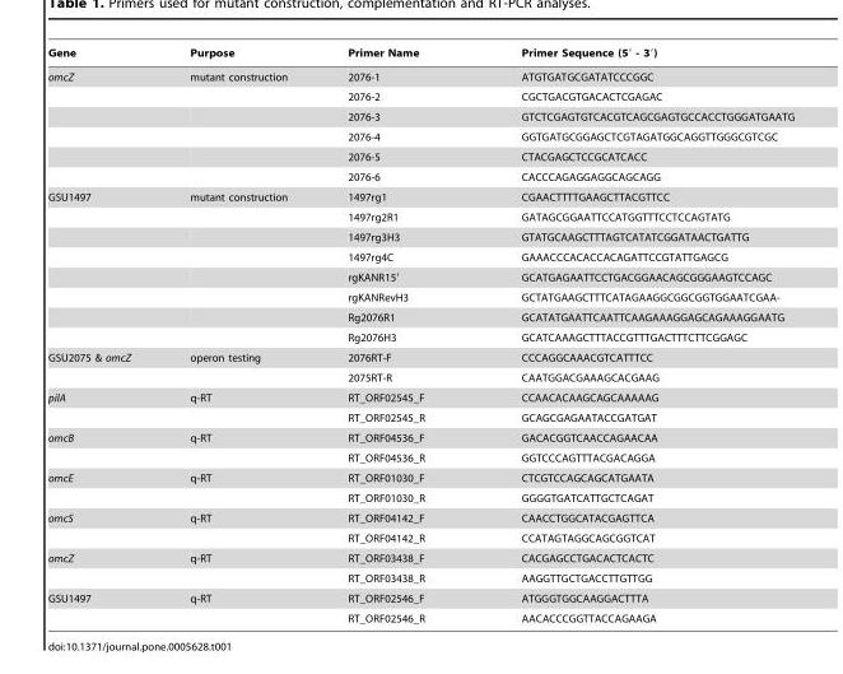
<table><thead><tr><td>Gene</td><td>Purpose</td><td>Primer Name</td><td>Primer Sequence (5′ - 3′)</td></tr></thead><tbody><tr><td rowspan="6">omcZ</td><td>mutant construction</td><td>2076-1</td><td>ATGTGATGCGATATCCCGGC</td></tr><tr><td></td><td>2076-2</td><td>CGCTGACGTGACACTCGAGAC</td></tr><tr><td></td><td>2076-3</td><td>GTCTCGAGTGTCACGTCAGCGAGTGCCACCTGGGATGAATG</td></tr><tr><td></td><td>2076-4</td><td>GGTGATGCGGAGCTCGTAGATGGCAGGTTGGGCGTCGC</td></tr><tr><td></td><td>2076-5</td><td>CTACGAGCTCCGCATCACC</td></tr><tr><td></td><td>2076-6</td><td>CACCCAGAGGAGGCAGCAGG</td></tr><tr><td rowspan="8">GSU1497</td><td>mutant construction</td><td>1497rg1</td><td>CGAACTTTTGAAGCTTACGTTCC</td></tr><tr><td></td><td>1497rg2R1</td><td>GATAGCGGAATTCCATGGTTTCCTCCAGTATG</td></tr><tr><td></td><td>1497rg3H3</td><td>GTATGCAAGCTTTAGTCATATCGGATAACTGATTG</td></tr><tr><td></td><td>1497rg4C</td><td>GAAACCCACACCACAGATTCCGTATTGAGCG</td></tr><tr><td></td><td>rgKANR15′</td><td>GCATGAGAATTCCTGACGGAACAGCGGGAAGTCCAGC</td></tr><tr><td></td><td>rgKANRevH3</td><td>GCTATGAAGCTTTCATAGAAGGCGGCGGTGGAATCGAA-</td></tr><tr><td></td><td>Rg2076R1</td><td>GCATATGAATTCAATTCAAGAAAGGAGCAGAAAGGAATG</td></tr><tr><td></td><td>Rg2076H3</td><td>GCATCAAAGCTTTACCGTTTGACTTTCTTCGGAGC</td></tr><tr><td rowspan="2">GSU2075 &amp; omcZ</td><td>operon testing</td><td>2076RT-F</td><td>CCCAGGCAAACGTCATTTCC</td></tr><tr><td></td><td>2075RT-R</td><td>CAATGGACGAAAGCACGAAG</td></tr><tr><td rowspan="2">pilA</td><td>q-RT</td><td>RT_ORF02545_F</td><td>CCAACACAAGCAGCAAAAAG</td></tr><tr><td></td><td>RT_ORF02545_R</td><td>GCAGCGAGAATACCGATGAT</td></tr><tr><td rowspan="2">omcB</td><td>q-RT</td><td>RT_ORF04536_F</td><td>GACACGGTCAACCAGAACAA</td></tr><tr><td></td><td>RT_ORF04536_R</td><td>GGTCCCAGTTTACGACAGGA</td></tr><tr><td rowspan="2">omcE</td><td>q-RT</td><td>RT_ORF01030_F</td><td>CTCGTCCAGCAGCATGAATA</td></tr><tr><td></td><td>RT_ORF01030_R</td><td>GGGGTGATCATTGCTCAGAT</td></tr><tr><td rowspan="2">omcS</td><td>q-RT</td><td>RT_ORF04142_F</td><td>CAACCTGGCATACGAGTTCA</td></tr><tr><td></td><td>RT_ORF04142_R</td><td>CCATAGTAGGCAGCGGTCAT</td></tr><tr><td rowspan="2">omcZ</td><td>q-RT</td><td>RT_ORF03438_F</td><td>CACGAGCCTGACACTCACTC</td></tr><tr><td></td><td>RT_ORF03438_R</td><td>AAGGTTGCTGACCTTGTTGG</td></tr><tr><td rowspan="2">GSU1497</td><td>q-RT</td><td>RT_ORF02546_F</td><td>ATGGGTGGCAAGGACTTTA</td></tr><tr><td></td><td>RT_ORF02546_R</td><td>AACACCCGGTTACCAGAAGA</td></tr></tbody></table>